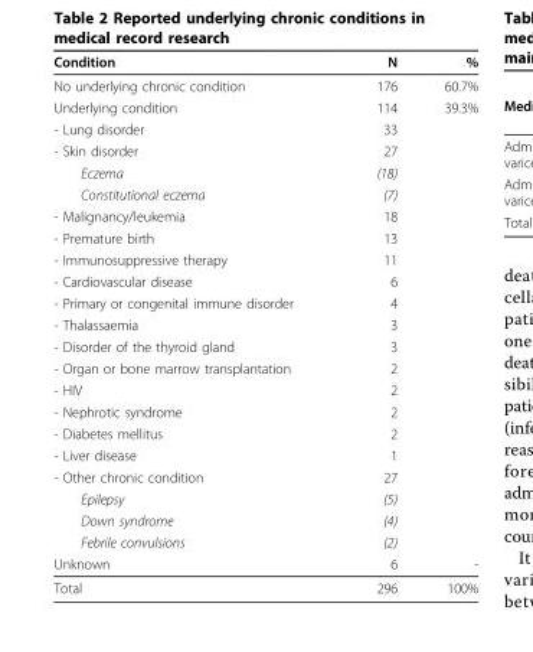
<table><thead><tr><td>Condition</td><td>N</td><td>%</td></tr></thead><tbody><tr><td>No underlying chronic condition</td><td>176</td><td>60.7%</td></tr><tr><td>Underlying condition</td><td>114</td><td>39.3%</td></tr><tr><td>- Lung disorder</td><td>33</td><td></td></tr><tr><td>- Skin disorder</td><td>27</td><td></td></tr><tr><td>Eczema</td><td>(18)</td><td></td></tr><tr><td>Constitutional eczema</td><td>(7)</td><td></td></tr><tr><td>- Malignancy/leukemia</td><td>18</td><td></td></tr><tr><td>- Premature birth</td><td>13</td><td></td></tr><tr><td>- Immunosuppressive therapy</td><td>11</td><td></td></tr><tr><td>- Cardiovascular disease</td><td>6</td><td></td></tr><tr><td>- Primary or congenital immune disorder</td><td>4</td><td></td></tr><tr><td>- Thalassaemia</td><td>3</td><td></td></tr><tr><td>- Disorder of the thyroid gland</td><td>3</td><td></td></tr><tr><td>- Organ or bone marrow transplantation</td><td>2</td><td></td></tr><tr><td>- HIV</td><td>2</td><td></td></tr><tr><td>- Nephrotic syndrome</td><td>2</td><td></td></tr><tr><td>- Diabetes mellitus</td><td>2</td><td></td></tr><tr><td>- Liver disease</td><td>1</td><td></td></tr><tr><td>- Other chronic condition</td><td>27</td><td></td></tr><tr><td>Epilepsy</td><td>(5)</td><td></td></tr><tr><td>Down syndrome</td><td>(4)</td><td></td></tr><tr><td>Febrile convulsions</td><td>(2)</td><td></td></tr><tr><td>Unknown</td><td>6</td><td>-</td></tr><tr><td>Total</td><td>296</td><td>100%</td></tr></tbody></table>